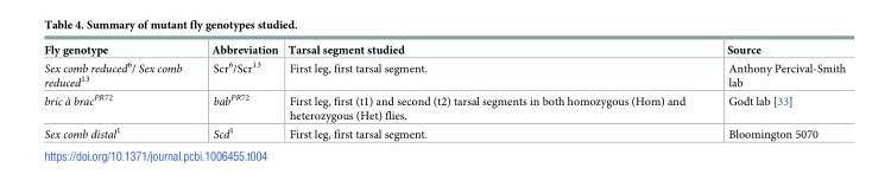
<table><thead><tr><td>Fly genotype</td><td>Abbreviation</td><td>Tarsal segment studied</td><td>Source</td></tr></thead><tbody><tr><td>Sex comb reduced<sup>6</sup>/ Sex comb reduced<sup>13</sup></td><td>Scr<sup>6</sup>/Scr<sup>13</sup></td><td>First leg, first tarsal segment.</td><td>Anthony Percival-Smith lab</td></tr><tr><td>bric à brac<sup>PR72</sup></td><td>bab<sup>PR72</sup></td><td>First leg, first (t1) and second (t2) tarsal segments in both homozygous (Hom) and heterozygous (Het) flies.</td><td>Godt lab [33]</td></tr><tr><td>Sex comb distal<sup>1</sup></td><td>Scd<sup>1</sup></td><td>First leg, first tarsal segment.</td><td>Bloomington 5070</td></tr></tbody></table>